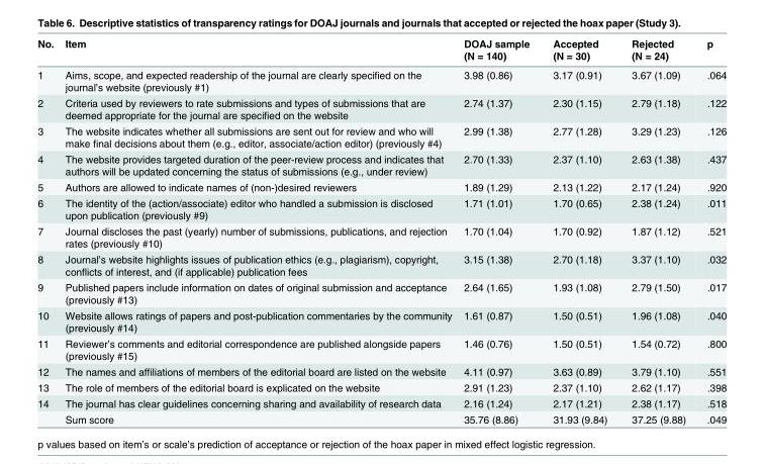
<table><thead><tr><td>No.</td><td>Item</td><td>DOAJ sample (N = 140)</td><td>Accepted (N = 30)</td><td>Rejected (N = 24)</td><td>p</td></tr></thead><tbody><tr><td>1</td><td>Aims, scope, and expected readership of the journal are clearly specified on the journal’s website (previously #1)</td><td>3.98 (0.86)</td><td>3.17 (0.91)</td><td>3.67 (1.09)</td><td>.064</td></tr><tr><td>2</td><td>Criteria used by reviewers to rate submissions and types of submissions that are deemed appropriate for the journal are specified on the website</td><td>2.74 (1.37)</td><td>2.30 (1.15)</td><td>2.79 (1.18)</td><td>.122</td></tr><tr><td>3</td><td>The website indicates whether all submissions are sent out for review and who will make final decisions about them (e.g., editor, associate/action editor) (previously #4)</td><td>2.99 (1.38)</td><td>2.77 (1.28)</td><td>3.29 (1.23)</td><td>.126</td></tr><tr><td>4</td><td>The website provides targeted duration of the peer-review process and indicates that authors will be updated concerning the status of submissions (e.g., under review)</td><td>2.70 (1.33)</td><td>2.37 (1.10)</td><td>2.63 (1.38)</td><td>.437</td></tr><tr><td>5</td><td>Authors are allowed to indicate names of (non-)desired reviewers</td><td>1.89 (1.29)</td><td>2.13 (1.22)</td><td>2.17 (1.24)</td><td>.920</td></tr><tr><td>6</td><td>The identity of the (action/associate) editor who handled a submission is disclosed upon publication (previously #9)</td><td>1.71 (1.01)</td><td>1.70 (0.65)</td><td>2.38 (1.24)</td><td>.011</td></tr><tr><td>7</td><td>Journal discloses the past (yearly) number of submissions, publications, and rejection rates (previously #10)</td><td>1.70 (1.04)</td><td>1.70 (0.92)</td><td>1.87 (1.12)</td><td>.521</td></tr><tr><td>8</td><td>Journal’s website highlights issues of publication ethics (e.g., plagiarism), copyright, conflicts of interest, and (if applicable) publication fees</td><td>3.15 (1.38)</td><td>2.70 (1.18)</td><td>3.37 (1.10)</td><td>.032</td></tr><tr><td>9</td><td>Published papers include information on dates of original submission and acceptance (previously #13)</td><td>2.64 (1.65)</td><td>1.93 (1.08)</td><td>2.79 (1.50)</td><td>.017</td></tr><tr><td>10</td><td>Website allows ratings of papers and post-publication commentaries by the community (previously #14)</td><td>1.61 (0.87)</td><td>1.50 (0.51)</td><td>1.96 (1.08)</td><td>.040</td></tr><tr><td>11</td><td>Reviewer’s comments and editorial correspondence are published alongside papers (previously #15)</td><td>1.46 (0.76)</td><td>1.50 (0.51)</td><td>1.54 (0.72)</td><td>.800</td></tr><tr><td>12</td><td>The names and affiliations of members of the editorial board are listed on the website</td><td>4.11 (0.97)</td><td>3.63 (0.89)</td><td>3.79 (1.10)</td><td>.551</td></tr><tr><td>13</td><td>The role of members of the editorial board is explicated on the website</td><td>2.91 (1.23)</td><td>2.37 (1.10)</td><td>2.62 (1.17)</td><td>.398</td></tr><tr><td rowspan="2">14</td><td>The journal has clear guidelines concerning sharing and availability of research data</td><td>2.16 (1.24)</td><td>2.17 (1.21)</td><td>2.38 (1.17)</td><td>.518</td></tr><tr><td>Sum score</td><td>35.76 (8.86)</td><td>31.93 (9.84)</td><td>37.25 (9.88)</td><td>.049</td></tr></tbody></table>